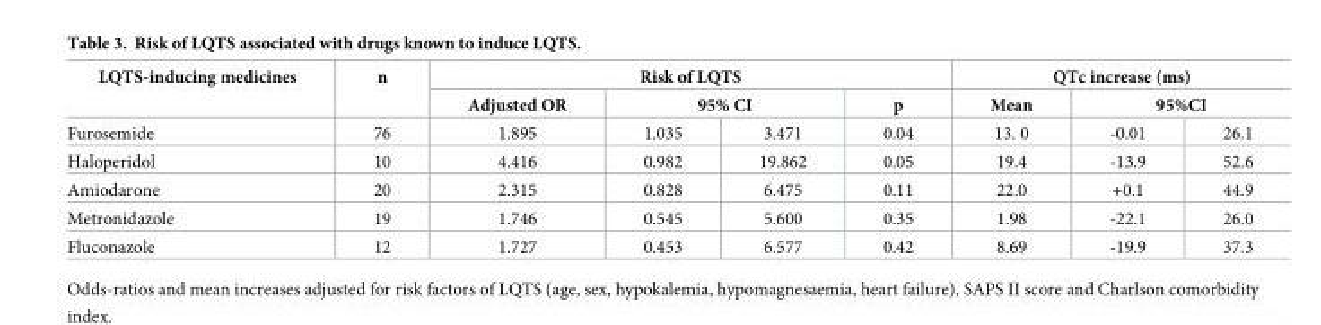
<table><thead><tr><td rowspan="3">LQTS-inducing medicines Furosemide</td><td rowspan="3">n 76</td><td colspan="4">Risk of LQTS</td><td colspan="3">QTc increase (ms)</td></tr><tr><td rowspan="2">Adjusted OR 1.895</td><td colspan="2">95% CI</td><td rowspan="2">p 0.04</td><td rowspan="2">Mean 13. 0</td><td colspan="2">95%CI</td></tr><tr><td>1.035</td><td>3.471</td><td>-0.01</td><td>26.1</td></tr></thead><tbody><tr><td>Haloperidol</td><td>10</td><td>4.416</td><td>0.982</td><td>19.862</td><td>0.05</td><td>19.4</td><td>-13.9</td><td>52.6</td></tr><tr><td>Amiodarone</td><td>20</td><td>2.315</td><td>0.828</td><td>6.475</td><td>0.11</td><td>22.0</td><td>+0.1</td><td>44.9</td></tr><tr><td>Metronidazole</td><td>19</td><td>1.746</td><td>0.545</td><td>5.600</td><td>0.35</td><td>1.98</td><td>-22.1</td><td>26.0</td></tr><tr><td>Fluconazole</td><td>12</td><td>1.727</td><td>0.453</td><td>6.577</td><td>0.42</td><td>8.69</td><td>-19.9</td><td>37.3</td></tr></tbody></table>